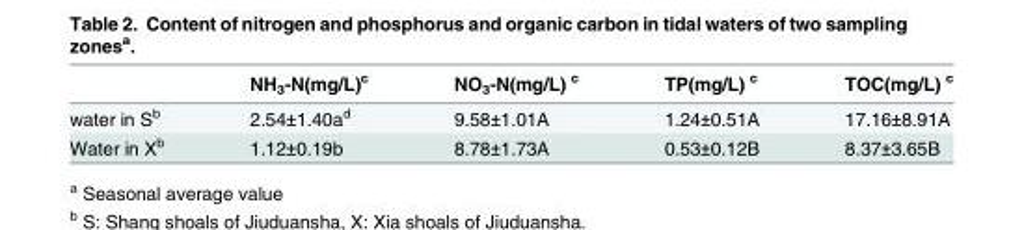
<table><thead><tr><td></td><td>NH<sub>3</sub>-N(mg/L)<sup>c</sup></td><td>NO<sub>3</sub>-N(mg/L) <sup>c</sup></td><td>TP(mg/L) <sup>c</sup></td><td>TOC(mg/L) <sup>c</sup></td></tr></thead><tbody><tr><td>water in S<sup>b</sup></td><td>2.54±1.40a<sup>d</sup></td><td>9.58±1.01A</td><td>1.24±0.51A</td><td>17.16±8.91A</td></tr><tr><td>Water in X<sup>b</sup></td><td>1.12±0.19b</td><td>8.78±1.73A</td><td>0.53±0.12B</td><td>8.37±3.65B</td></tr></tbody></table>